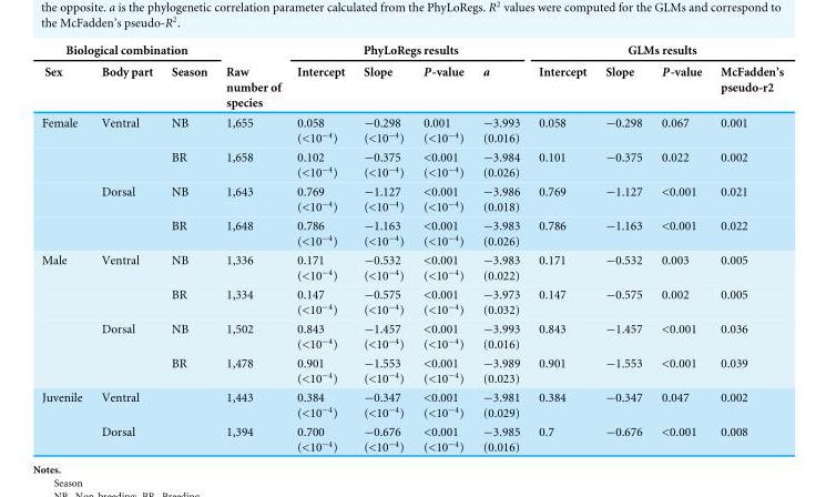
<table><thead><tr><td colspan="3">Biological combination</td><td rowspan="2">Raw number of species</td><td colspan="4">PhyLoRegs results</td><td colspan="4">GLMs results</td></tr><tr><td>Sex</td><td>Body part</td><td>Season</td><td>Intercept</td><td>Slope</td><td>P-value</td><td>a</td><td>Intercept</td><td>Slope</td><td>P-value</td><td>McFadden’s pseudo-r2</td></tr></thead><tbody><tr><td rowspan="4">Female</td><td>Ventral</td><td>NB</td><td>1,655</td><td>0.058 (&lt;10<sup>−4</sup>)</td><td>−0.298 (&lt;10<sup>−4</sup>)</td><td>0.001 (&lt;10<sup>−4</sup>)</td><td>−3.993 (0.016)</td><td>0.058</td><td>−0.298</td><td>0.067</td><td>0.001</td></tr><tr><td></td><td>BR</td><td>1,658</td><td>0.102 (&lt;10<sup>−4</sup>)</td><td>−0.375 (&lt;10<sup>−4</sup>)</td><td>&lt;0.001 (&lt;10<sup>−4</sup>)</td><td>−3.984 (0.026)</td><td>0.101</td><td>−0.375</td><td>0.022</td><td>0.002</td></tr><tr><td>Dorsal</td><td>NB</td><td>1,643</td><td>0.769 (&lt;10<sup>−4</sup>)</td><td>−1.127 (&lt;10<sup>−4</sup>)</td><td>&lt;0.001 (&lt;10<sup>−4</sup>)</td><td>−3.986 (0.018)</td><td>0.769</td><td>−1.127</td><td>&lt;0.001</td><td>0.021</td></tr><tr><td></td><td>BR</td><td>1,648</td><td>0.786 (&lt;10<sup>−4</sup>)</td><td>−1.163 (&lt;10<sup>−4</sup>)</td><td>&lt;0.001 (&lt;10<sup>−4</sup>)</td><td>−3.983 (0.026)</td><td>0.786</td><td>−1.163</td><td>&lt;0.001</td><td>0.022</td></tr><tr><td rowspan="4">Male</td><td>Ventral</td><td>NB</td><td>1,336</td><td>0.171 (&lt;10<sup>−4</sup>)</td><td>−0.532 (&lt;10<sup>−4</sup>)</td><td>&lt;0.001 (&lt;10<sup>−4</sup>)</td><td>−3.983 (0.022)</td><td>0.171</td><td>−0.532</td><td>0.003</td><td>0.005</td></tr><tr><td></td><td>BR</td><td>1,334</td><td>0.147 (&lt;10<sup>−4</sup>)</td><td>−0.575 (&lt;10<sup>−4</sup>)</td><td>&lt;0.001 (&lt;10<sup>−4</sup>)</td><td>−3.973 (0.032)</td><td>0.147</td><td>−0.575</td><td>0.002</td><td>0.005</td></tr><tr><td>Dorsal</td><td>NB</td><td>1,502</td><td>0.843 (&lt;10<sup>−4</sup>)</td><td>−1.457 (&lt;10<sup>−4</sup>)</td><td>&lt;0.001 (&lt;10<sup>−4</sup>)</td><td>−3.993 (0.016)</td><td>0.843</td><td>−1.457</td><td>&lt;0.001</td><td>0.036</td></tr><tr><td></td><td>BR</td><td>1,478</td><td>0.901 (&lt;10<sup>−4</sup>)</td><td>−1.553 (&lt;10<sup>−4</sup>)</td><td>&lt;0.001 (&lt;10<sup>−4</sup>)</td><td>−3.989 (0.023)</td><td>0.901</td><td>−1.553</td><td>&lt;0.001</td><td>0.039</td></tr><tr><td rowspan="2">Juvenile</td><td>Ventral</td><td></td><td>1,443</td><td>0.384 (&lt;10<sup>−4</sup>)</td><td>−0.347 (&lt;10<sup>−4</sup>)</td><td>&lt;0.001 (&lt;10<sup>−4</sup>)</td><td>−3.981 (0.029)</td><td>0.384</td><td>−0.347</td><td>0.047</td><td>0.002</td></tr><tr><td>Dorsal</td><td></td><td>1,394</td><td>0.700 (&lt;10<sup>−4</sup>)</td><td>−0.676 (&lt;10<sup>−4</sup>)</td><td>&lt;0.001 (&lt;10<sup>−4</sup>)</td><td>−3.985 (0.016)</td><td>0.7</td><td>−0.676</td><td>&lt;0.001</td><td>0.008</td></tr></tbody></table>